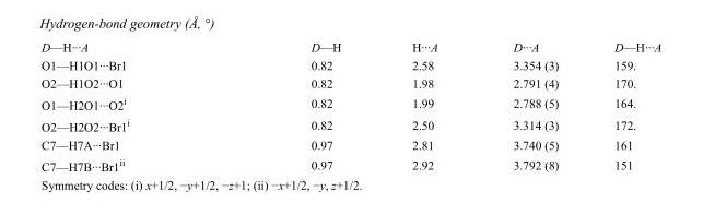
<table><tbody><tr><td>D—H···A</td><td>D—H</td><td>H···A</td><td>D···A</td><td>D—H···A</td></tr><tr><td>O1—H1O1···Br1</td><td>0.82</td><td>2.58</td><td>3.354 (3)</td><td>159.</td></tr><tr><td>O2—H1O2···O1</td><td>0.82</td><td>1.98</td><td>2.791 (4)</td><td>170.</td></tr><tr><td>O1—H2O1···O2<sup>i</sup></td><td>0.82</td><td>1.99</td><td>2.788 (5)</td><td>164.</td></tr><tr><td>O2—H2O2···Br1<sup>i</sup></td><td>0.82</td><td>2.50</td><td>3.314 (3)</td><td>172.</td></tr><tr><td>C7—H7A···Br1</td><td>0.97</td><td>2.81</td><td>3.740 (5)</td><td>161</td></tr><tr><td>C7—H7B···Br1<sup>ii</sup></td><td>0.97</td><td>2.92</td><td>3.792 (8)</td><td>151</td></tr></tbody></table>